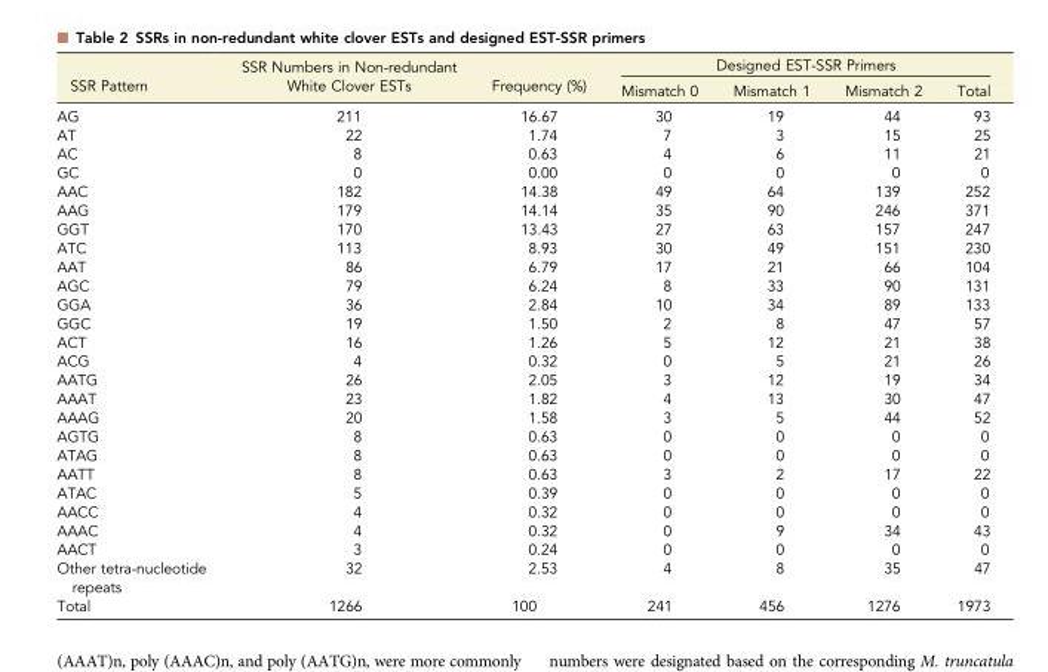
<table><thead><tr><td rowspan="2">SSR Pattern</td><td rowspan="2">SSR Numbers in Non-redundant White Clover ESTs</td><td rowspan="2">Frequency (%)</td><td colspan="4">Designed EST-SSR Primers</td></tr><tr><td>Mismatch 0</td><td>Mismatch 1</td><td>Mismatch 2</td><td>Total</td></tr></thead><tbody><tr><td>AG</td><td>211</td><td>16.67</td><td>30</td><td>19</td><td>44</td><td>93</td></tr><tr><td>AT</td><td>22</td><td>1.74</td><td>7</td><td>3</td><td>15</td><td>25</td></tr><tr><td>AC</td><td>8</td><td>0.63</td><td>4</td><td>6</td><td>11</td><td>21</td></tr><tr><td>GC</td><td>0</td><td>0.00</td><td>0</td><td>0</td><td>0</td><td>0</td></tr><tr><td>AAC</td><td>182</td><td>14.38</td><td>49</td><td>64</td><td>139</td><td>252</td></tr><tr><td>AAG</td><td>179</td><td>14.14</td><td>35</td><td>90</td><td>246</td><td>371</td></tr><tr><td>GGT</td><td>170</td><td>13.43</td><td>27</td><td>63</td><td>157</td><td>247</td></tr><tr><td>ATC</td><td>113</td><td>8.93</td><td>30</td><td>49</td><td>151</td><td>230</td></tr><tr><td>AAT</td><td>86</td><td>6.79</td><td>17</td><td>21</td><td>66</td><td>104</td></tr><tr><td>AGC</td><td>79</td><td>6.24</td><td>8</td><td>33</td><td>90</td><td>131</td></tr><tr><td>GGA</td><td>36</td><td>2.84</td><td>10</td><td>34</td><td>89</td><td>133</td></tr><tr><td>GGC</td><td>19</td><td>1.50</td><td>2</td><td>8</td><td>47</td><td>57</td></tr><tr><td>ACT</td><td>16</td><td>1.26</td><td>5</td><td>12</td><td>21</td><td>38</td></tr><tr><td>ACG</td><td>4</td><td>0.32</td><td>0</td><td>5</td><td>21</td><td>26</td></tr><tr><td>AATG</td><td>26</td><td>2.05</td><td>3</td><td>12</td><td>19</td><td>34</td></tr><tr><td>AAAT</td><td>23</td><td>1.82</td><td>4</td><td>13</td><td>30</td><td>47</td></tr><tr><td>AAAG</td><td>20</td><td>1.58</td><td>3</td><td>5</td><td>44</td><td>52</td></tr><tr><td>AGTG</td><td>8</td><td>0.63</td><td>0</td><td>0</td><td>0</td><td>0</td></tr><tr><td>ATAG</td><td>8</td><td>0.63</td><td>0</td><td>0</td><td>0</td><td>0</td></tr><tr><td>AATT</td><td>8</td><td>0.63</td><td>3</td><td>2</td><td>17</td><td>22</td></tr><tr><td>ATAC</td><td>5</td><td>0.39</td><td>0</td><td>0</td><td>0</td><td>0</td></tr><tr><td>AACC</td><td>4</td><td>0.32</td><td>0</td><td>0</td><td>0</td><td>0</td></tr><tr><td>AAAC</td><td>4</td><td>0.32</td><td>0</td><td>9</td><td>34</td><td>43</td></tr><tr><td>AACT</td><td>3</td><td>0.24</td><td>0</td><td>0</td><td>0</td><td>0</td></tr><tr><td>Other tetra-nucleotide repeats</td><td>32</td><td>2.53</td><td>4</td><td>8</td><td>35</td><td>47</td></tr><tr><td>Total</td><td>1266</td><td>100</td><td>241</td><td>456</td><td>1276</td><td>1973</td></tr></tbody></table>